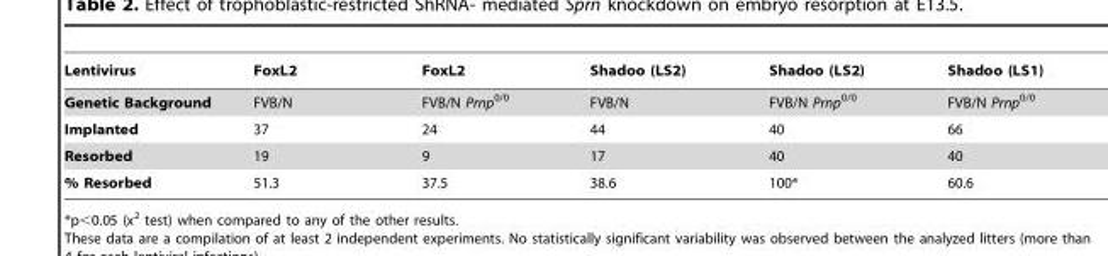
<table><thead><tr><td>Lentivirus</td><td>FoxL2</td><td>FoxL2</td><td>Shadoo (LS2)</td><td>Shadoo (LS2)</td><td>Shadoo (LS1)</td></tr></thead><tbody><tr><td>Genetic Background</td><td>FVB/N</td><td>FVB/N Prnp<sup>0/0</sup></td><td>FVB/N</td><td>FVB/N Prnp<sup>0/0</sup></td><td>FVB/N Prnp<sup>0/0</sup></td></tr><tr><td>Implanted</td><td>37</td><td>24</td><td>44</td><td>40</td><td>66</td></tr><tr><td>Resorbed</td><td>19</td><td>9</td><td>17</td><td>40</td><td>40</td></tr><tr><td>% Resorbed</td><td>51.3</td><td>37.5</td><td>38.6</td><td>100*</td><td>60.6</td></tr></tbody></table>